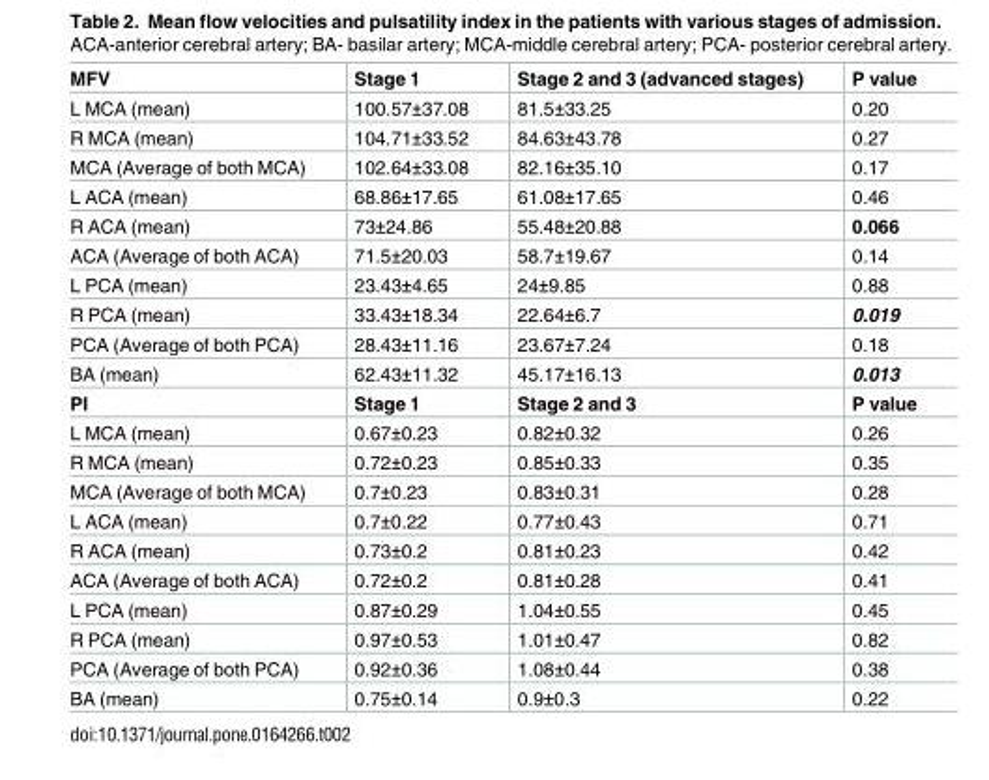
<table><tbody><tr><td>MFV</td><td>Stage 1</td><td>Stage 2 and 3 (advanced stages)</td><td>P value</td></tr><tr><td>L MCA (mean)</td><td>100.57±37.08</td><td>81.5±33.25</td><td>0.20</td></tr><tr><td>R MCA (mean)</td><td>104.71±33.52</td><td>84.63±43.78</td><td>0.27</td></tr><tr><td>MCA (Average of both MCA)</td><td>102.64±33.08</td><td>82.16±35.10</td><td>0.17</td></tr><tr><td>L ACA (mean)</td><td>68.86±17.65</td><td>61.08±17.65</td><td>0.46</td></tr><tr><td>R ACA (mean)</td><td>73±24.86</td><td>55.48±20.88</td><td>0.066</td></tr><tr><td>ACA (Average of both ACA)</td><td>71.5±20.03</td><td>58.7±19.67</td><td>0.14</td></tr><tr><td>L PCA (mean)</td><td>23.43±4.65</td><td>24±9.85</td><td>0.88</td></tr><tr><td>R PCA (mean)</td><td>33.43±18.34</td><td>22.64±6.7</td><td>0.019</td></tr><tr><td>PCA (Average of both PCA)</td><td>28.43±11.16</td><td>23.67±7.24</td><td>0.18</td></tr><tr><td>BA (mean)</td><td>62.43±11.32</td><td>45.17±16.13</td><td>0.013</td></tr><tr><td>PI</td><td>Stage 1</td><td>Stage 2 and 3</td><td>P value</td></tr><tr><td>L MCA (mean)</td><td>0.67±0.23</td><td>0.82±0.32</td><td>0.26</td></tr><tr><td>R MCA (mean)</td><td>0.72±0.23</td><td>0.85±0.33</td><td>0.35</td></tr><tr><td>MCA (Average of both MCA)</td><td>0.7±0.23</td><td>0.83±0.31</td><td>0.28</td></tr><tr><td>L ACA (mean)</td><td>0.7±0.22</td><td>0.77±0.43</td><td>0.71</td></tr><tr><td>R ACA (mean)</td><td>0.73±0.2</td><td>0.81±0.23</td><td>0.42</td></tr><tr><td>ACA (Average of both ACA)</td><td>0.72±0.2</td><td>0.81±0.28</td><td>0.41</td></tr><tr><td>L PCA (mean)</td><td>0.87±0.29</td><td>1.04±0.55</td><td>0.45</td></tr><tr><td>R PCA (mean)</td><td>0.97±0.53</td><td>1.01±0.47</td><td>0.82</td></tr><tr><td>PCA (Average of both PCA)</td><td>0.92±0.36</td><td>1.08±0.44</td><td>0.38</td></tr><tr><td>BA (mean)</td><td>0.75±0.14</td><td>0.9±0.3</td><td>0.22</td></tr></tbody></table>